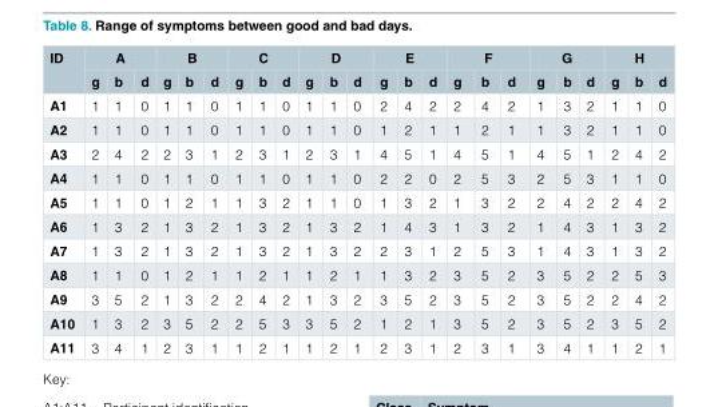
<table><thead><tr><td rowspan="2">ID</td><td colspan="3">A</td><td colspan="3">B</td><td colspan="3">C</td><td colspan="3">D</td><td colspan="3">E</td><td colspan="3">F</td><td colspan="3">G</td><td colspan="3">H</td></tr><tr><td>g</td><td>b</td><td>d</td><td>g</td><td>b</td><td>d</td><td>g</td><td>b</td><td>d</td><td>g</td><td>b</td><td>d</td><td>g</td><td>b</td><td>d</td><td>g</td><td>b</td><td>d</td><td>g</td><td>b</td><td>d</td><td>g</td><td>b</td><td>d</td></tr></thead><tbody><tr><td>A1</td><td>1</td><td>1</td><td>0</td><td>1</td><td>1</td><td>0</td><td>1</td><td>1</td><td>0</td><td>1</td><td>1</td><td>0</td><td>2</td><td>4</td><td>2</td><td>2</td><td>4</td><td>2</td><td>1</td><td>3</td><td>2</td><td>1</td><td>1</td><td>0</td></tr><tr><td>A2</td><td>1</td><td>1</td><td>0</td><td>1</td><td>1</td><td>0</td><td>1</td><td>1</td><td>0</td><td>1</td><td>1</td><td>0</td><td>1</td><td>2</td><td>1</td><td>1</td><td>2</td><td>1</td><td>1</td><td>3</td><td>2</td><td>1</td><td>1</td><td>0</td></tr><tr><td>A3</td><td>2</td><td>4</td><td>2</td><td>2</td><td>3</td><td>1</td><td>2</td><td>3</td><td>1</td><td>2</td><td>3</td><td>1</td><td>4</td><td>5</td><td>1</td><td>4</td><td>5</td><td>1</td><td>4</td><td>5</td><td>1</td><td>2</td><td>4</td><td>2</td></tr><tr><td>A4</td><td>1</td><td>1</td><td>0</td><td>1</td><td>1</td><td>0</td><td>1</td><td>1</td><td>0</td><td>1</td><td>1</td><td>0</td><td>2</td><td>2</td><td>0</td><td>2</td><td>5</td><td>3</td><td>2</td><td>5</td><td>3</td><td>1</td><td>1</td><td>0</td></tr><tr><td>A5</td><td>1</td><td>1</td><td>0</td><td>1</td><td>2</td><td>1</td><td>1</td><td>3</td><td>2</td><td>1</td><td>1</td><td>0</td><td>1</td><td>3</td><td>2</td><td>1</td><td>3</td><td>2</td><td>2</td><td>4</td><td>2</td><td>2</td><td>4</td><td>2</td></tr><tr><td>A6</td><td>1</td><td>3</td><td>2</td><td>1</td><td>3</td><td>2</td><td>1</td><td>3</td><td>2</td><td>1</td><td>3</td><td>2</td><td>1</td><td>4</td><td>3</td><td>1</td><td>3</td><td>2</td><td>1</td><td>4</td><td>3</td><td>1</td><td>3</td><td>2</td></tr><tr><td>A7</td><td>1</td><td>3</td><td>2</td><td>1</td><td>3</td><td>2</td><td>1</td><td>3</td><td>2</td><td>1</td><td>3</td><td>2</td><td>2</td><td>3</td><td>1</td><td>2</td><td>5</td><td>3</td><td>1</td><td>4</td><td>3</td><td>1</td><td>3</td><td>2</td></tr><tr><td>A8</td><td>1</td><td>1</td><td>0</td><td>1</td><td>2</td><td>1</td><td>1</td><td>2</td><td>1</td><td>1</td><td>2</td><td>1</td><td>1</td><td>3</td><td>2</td><td>3</td><td>5</td><td>2</td><td>3</td><td>5</td><td>2</td><td>2</td><td>5</td><td>3</td></tr><tr><td>A9</td><td>3</td><td>5</td><td>2</td><td>1</td><td>3</td><td>2</td><td>2</td><td>4</td><td>2</td><td>1</td><td>3</td><td>2</td><td>3</td><td>5</td><td>2</td><td>3</td><td>5</td><td>2</td><td>3</td><td>5</td><td>2</td><td>2</td><td>4</td><td>2</td></tr><tr><td>A10</td><td>1</td><td>3</td><td>2</td><td>3</td><td>5</td><td>2</td><td>2</td><td>5</td><td>3</td><td>3</td><td>5</td><td>2</td><td>1</td><td>2</td><td>1</td><td>3</td><td>5</td><td>2</td><td>3</td><td>5</td><td>2</td><td>3</td><td>5</td><td>2</td></tr><tr><td>A11</td><td>3</td><td>4</td><td>1</td><td>2</td><td>3</td><td>1</td><td>1</td><td>2</td><td>1</td><td>1</td><td>2</td><td>1</td><td>2</td><td>3</td><td>1</td><td>2</td><td>3</td><td>1</td><td>3</td><td>4</td><td>1</td><td>1</td><td>2</td><td>1</td></tr></tbody></table>